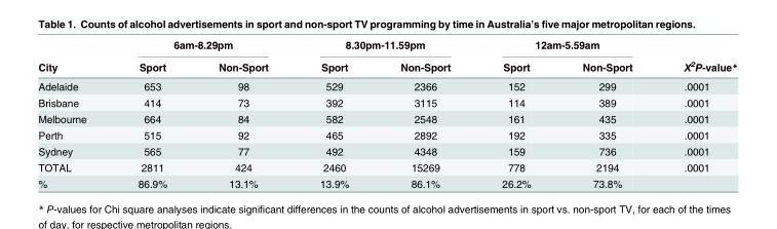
<table><thead><tr><td rowspan="2">City</td><td colspan="2">6am-8.29pm</td><td colspan="2">8.30pm-11.59pm</td><td colspan="2">12am-5.59am</td><td rowspan="2">X<sup>2</sup>P-value*</td></tr><tr><td>Sport</td><td>Non-Sport</td><td>Sport</td><td>Non-Sport</td><td>Sport</td><td>Non-Sport</td></tr></thead><tbody><tr><td>Adelaide</td><td>653</td><td>98</td><td>529</td><td>2366</td><td>152</td><td>299</td><td>.0001</td></tr><tr><td>Brisbane</td><td>414</td><td>73</td><td>392</td><td>3115</td><td>114</td><td>389</td><td>.0001</td></tr><tr><td>Melbourne</td><td>664</td><td>84</td><td>582</td><td>2548</td><td>161</td><td>435</td><td>.0001</td></tr><tr><td>Perth</td><td>515</td><td>92</td><td>465</td><td>2892</td><td>192</td><td>335</td><td>.0001</td></tr><tr><td>Sydney</td><td>565</td><td>77</td><td>492</td><td>4348</td><td>159</td><td>736</td><td>.0001</td></tr><tr><td>TOTAL</td><td>2811</td><td>424</td><td>2460</td><td>15269</td><td>778</td><td>2194</td><td>.0001</td></tr><tr><td>%</td><td>86.9%</td><td>13.1%</td><td>13.9%</td><td>86.1%</td><td>26.2%</td><td>73.8%</td><td></td></tr></tbody></table>